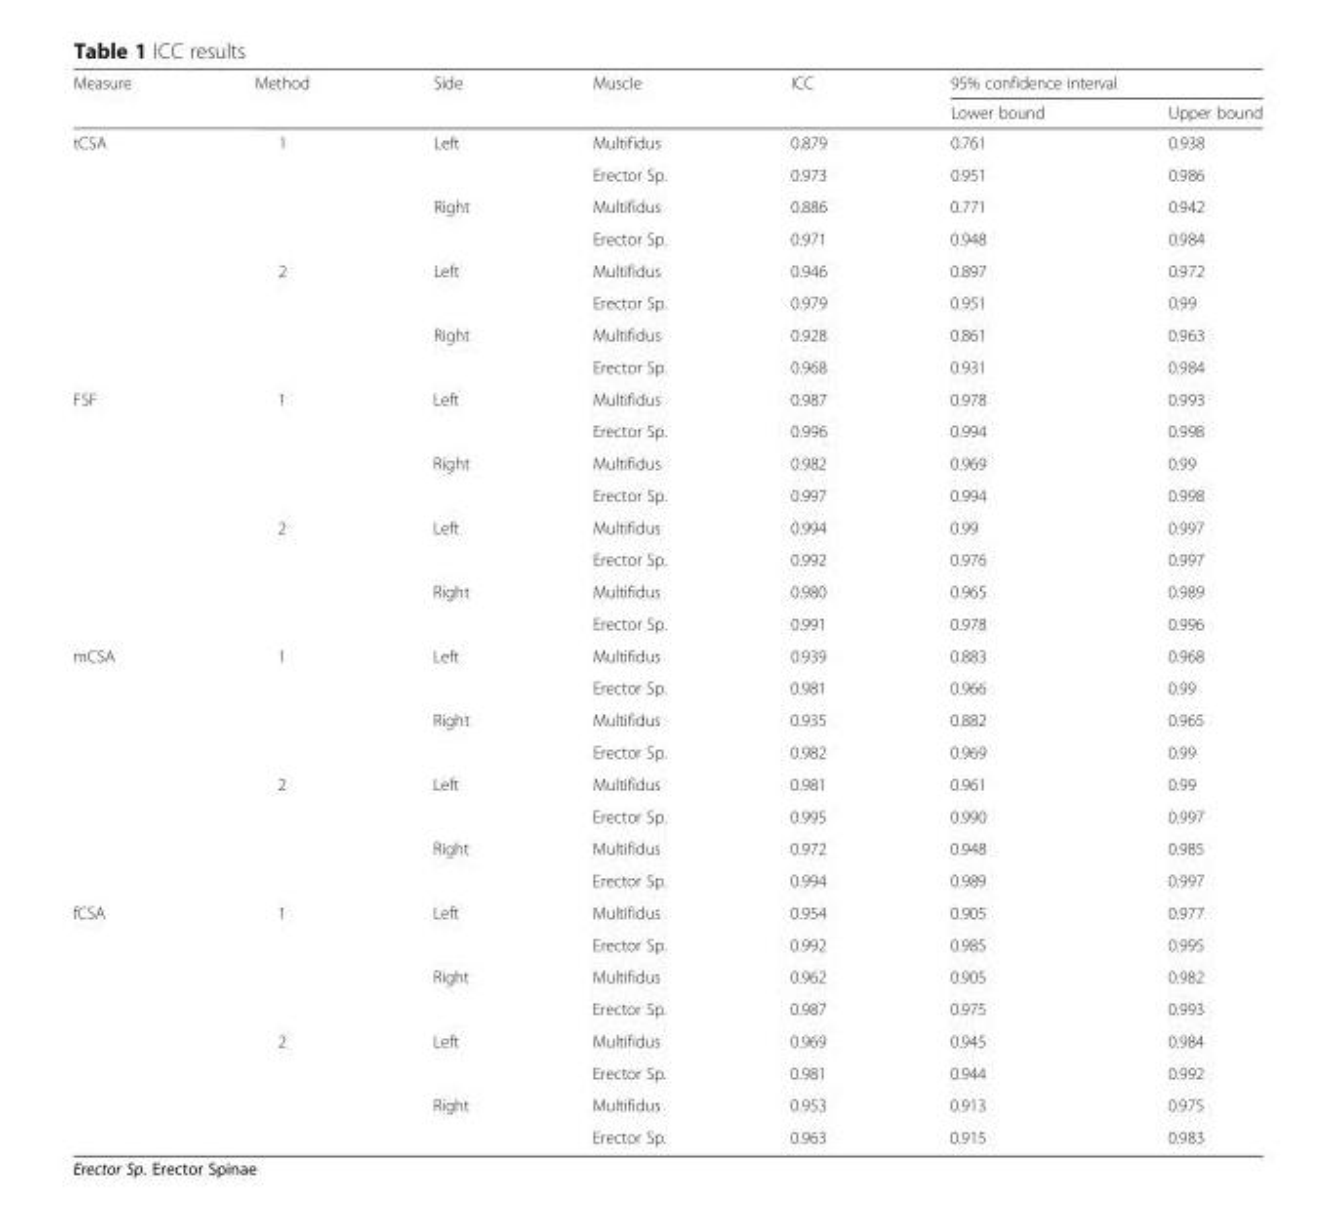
<table><thead><tr><td rowspan="2">Measure</td><td rowspan="2">Method</td><td rowspan="2">Side</td><td rowspan="2">Muscle</td><td rowspan="2">ICC</td><td colspan="2">95% confidence interval</td></tr><tr><td>Lower bound</td><td>Upper bound</td></tr></thead><tbody><tr><td rowspan="8">tCSA</td><td rowspan="4">1</td><td rowspan="2">Left</td><td>Multifidus</td><td>0.879</td><td>0.761</td><td>0.938</td></tr><tr><td>Erector Sp.</td><td>0.973</td><td>0.951</td><td>0.986</td></tr><tr><td rowspan="2">Right</td><td>Multifidus</td><td>0.886</td><td>0.771</td><td>0.942</td></tr><tr><td>Erector Sp.</td><td>0.971</td><td>0.948</td><td>0.984</td></tr><tr><td rowspan="4">2</td><td rowspan="2">Left</td><td>Multifidus</td><td>0.946</td><td>0.897</td><td>0.972</td></tr><tr><td>Erector Sp.</td><td>0.979</td><td>0.951</td><td>0.99</td></tr><tr><td rowspan="2">Right</td><td>Multifidus</td><td>0.928</td><td>0.861</td><td>0.963</td></tr><tr><td>Erector Sp.</td><td>0.968</td><td>0.931</td><td>0.984</td></tr><tr><td rowspan="8">FSF</td><td rowspan="4">1</td><td rowspan="2">Left</td><td>Multifidus</td><td>0.987</td><td>0.978</td><td>0.993</td></tr><tr><td>Erector Sp.</td><td>0.996</td><td>0.994</td><td>0.998</td></tr><tr><td rowspan="2">Right</td><td>Multifidus</td><td>0.982</td><td>0.969</td><td>0.99</td></tr><tr><td>Erector Sp.</td><td>0.997</td><td>0.994</td><td>0.998</td></tr><tr><td rowspan="4">2</td><td rowspan="2">Left</td><td>Multifidus</td><td>0.994</td><td>0.99</td><td>0.997</td></tr><tr><td>Erector Sp.</td><td>0.992</td><td>0.976</td><td>0.997</td></tr><tr><td rowspan="2">Right</td><td>Multifidus</td><td>0.980</td><td>0.965</td><td>0.989</td></tr><tr><td>Erector Sp.</td><td>0.991</td><td>0.978</td><td>0.996</td></tr><tr><td rowspan="8">mCSA</td><td rowspan="4">1</td><td rowspan="2">Left</td><td>Multifidus</td><td>0.939</td><td>0.883</td><td>0.968</td></tr><tr><td>Erector Sp.</td><td>0.981</td><td>0.966</td><td>0.99</td></tr><tr><td rowspan="2">Right</td><td>Multifidus</td><td>0.935</td><td>0.882</td><td>0.965</td></tr><tr><td>Erector Sp.</td><td>0.982</td><td>0.969</td><td>0.99</td></tr><tr><td rowspan="4">2</td><td rowspan="2">Left</td><td>Multifidus</td><td>0.981</td><td>0.961</td><td>0.99</td></tr><tr><td>Erector Sp.</td><td>0.995</td><td>0.990</td><td>0.997</td></tr><tr><td rowspan="2">Right</td><td>Multifidus</td><td>0.972</td><td>0.948</td><td>0.985</td></tr><tr><td>Erector Sp.</td><td>0.994</td><td>0.989</td><td>0.997</td></tr><tr><td rowspan="8">fCSA</td><td rowspan="4">1</td><td rowspan="2">Left</td><td>Multifidus</td><td>0.954</td><td>0.905</td><td>0.977</td></tr><tr><td>Erector Sp.</td><td>0.992</td><td>0.985</td><td>0.995</td></tr><tr><td rowspan="2">Right</td><td>Multifidus</td><td>0.962</td><td>0.905</td><td>0.982</td></tr><tr><td>Erector Sp.</td><td>0.987</td><td>0.975</td><td>0.993</td></tr><tr><td rowspan="4">2</td><td rowspan="2">Left</td><td>Multifidus</td><td>0.969</td><td>0.945</td><td>0.984</td></tr><tr><td>Erector Sp.</td><td>0.981</td><td>0.944</td><td>0.992</td></tr><tr><td rowspan="2">Right</td><td>Multifidus</td><td>0.953</td><td>0.913</td><td>0.975</td></tr><tr><td>Erector Sp.</td><td>0.963</td><td>0.915</td><td>0.983</td></tr></tbody></table>